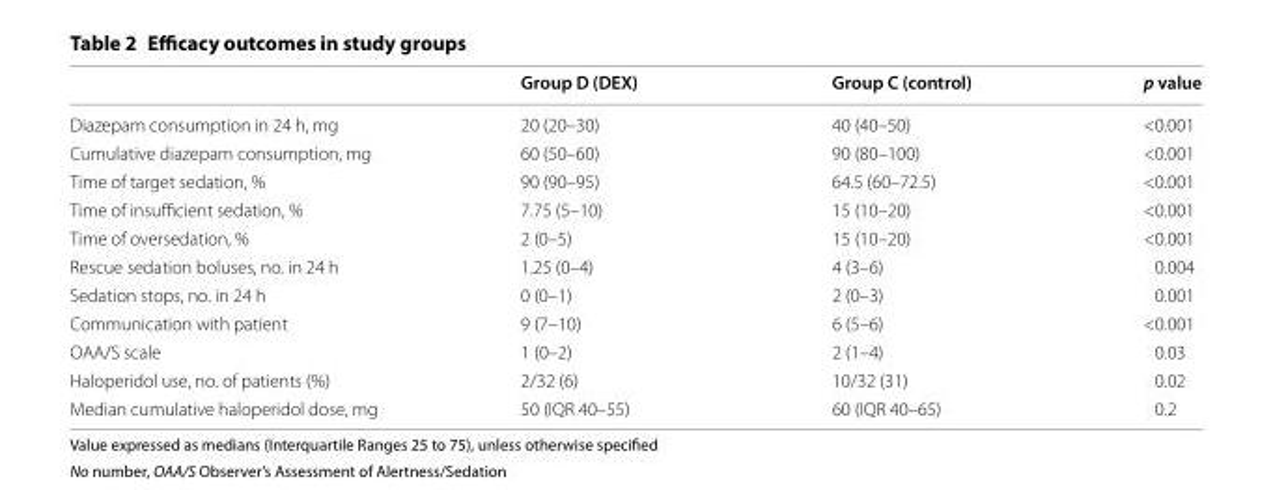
<table><thead><tr><td></td><td>Group D (DEX)</td><td>Group C (control)</td><td>p value</td></tr></thead><tbody><tr><td>Diazepam consumption in 24 h, mg</td><td>20 (20–30)</td><td>40 (40–50)</td><td>&lt;0.001</td></tr><tr><td>Cumulative diazepam consumption, mg</td><td>60 (50–60)</td><td>90 (80–100)</td><td>&lt;0.001</td></tr><tr><td>Time of target sedation, %</td><td>90 (90–95)</td><td>64.5 (60–72.5)</td><td>&lt;0.001</td></tr><tr><td>Time of insufficient sedation, %</td><td>7.75 (5–10)</td><td>15 (10–20)</td><td>&lt;0.001</td></tr><tr><td>Time of oversedation, %</td><td>2 (0–5)</td><td>15 (10–20)</td><td>&lt;0.001</td></tr><tr><td>Rescue sedation boluses, no. in 24 h</td><td>1.25 (0–4)</td><td>4 (3–6)</td><td>0.004</td></tr><tr><td>Sedation stops, no. in 24 h</td><td>0 (0–1)</td><td>2 (0–3)</td><td>0.001</td></tr><tr><td>Communication with patient</td><td>9 (7–10)</td><td>6 (5–6)</td><td>&lt;0.001</td></tr><tr><td>OAA/S scale</td><td>1 (0–2)</td><td>2 (1–4)</td><td>0.03</td></tr><tr><td>Haloperidol use, no. of patients (%)</td><td>2/32 (6)</td><td>10/32 (31)</td><td>0.02</td></tr><tr><td>Median cumulative haloperidol dose, mg</td><td>50 (IQR 40–55)</td><td>60 (IQR 40–65)</td><td>0.2</td></tr></tbody></table>